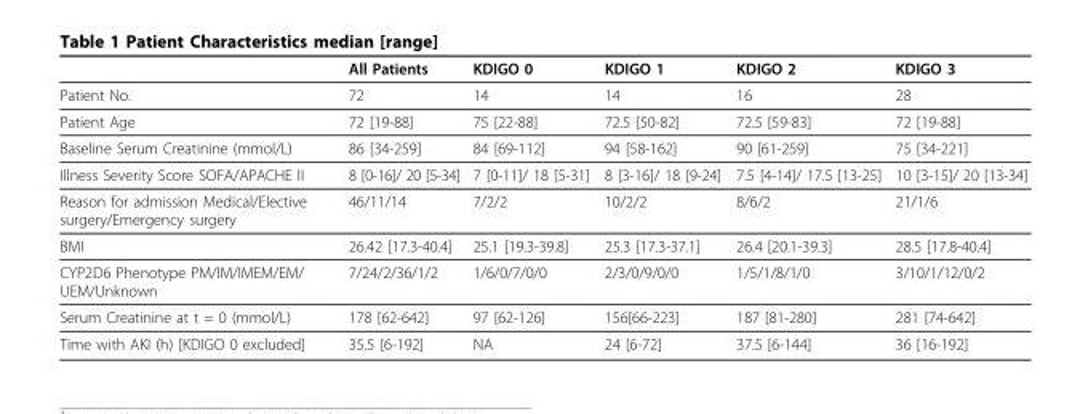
<table><thead><tr><td></td><td>All Patients</td><td>KDIGO 0</td><td>KDIGO 1</td><td>KDIGO 2</td><td>KDIGO 3</td></tr></thead><tbody><tr><td>Patient No.</td><td>72</td><td>14</td><td>14</td><td>16</td><td>28</td></tr><tr><td>Patient Age</td><td>72 [19-88]</td><td>75 [22-88]</td><td>72.5 [50-82]</td><td>72.5 [59-83]</td><td>72 [19-88]</td></tr><tr><td>Baseline Serum Creatinine (mmol/L)</td><td>86 [34-259]</td><td>84 [69-112]</td><td>94 [58-162]</td><td>90 [61-259]</td><td>75 [34-221]</td></tr><tr><td>Illness Severity Score SOFA/APACHE II</td><td>8 [0-16]/ 20 [5-34]</td><td>7 [0-11]/ 18 [5-31]</td><td>8 [3-16]/ 18 [9-24]</td><td>7.5 [4-14]/ 17.5 [13-25]</td><td>10 [3-15]/ 20 [13-34]</td></tr><tr><td>Reason for admission Medical/Elective surgery/Emergency surgery</td><td>46/11/14</td><td>7/2/2</td><td>10/2/2</td><td>8/6/2</td><td>21/1/6</td></tr><tr><td>BMI</td><td>26.42 [17.3-40.4]</td><td>25.1 [19.3-39.8]</td><td>25.3 [17.3-37.1]</td><td>26.4 [20.1-39.3]</td><td>28.5 [17.8-40.4]</td></tr><tr><td>CYP2D6 Phenotype PM/IM/IMEM/EM/ UEM/Unknown</td><td>7/24/2/36/1/2</td><td>1/6/0/7/0/0</td><td>2/3/0/9/0/0</td><td>1/5/1/8/1/0</td><td>3/10/1/12/0/2</td></tr><tr><td>Serum Creatinine at t = 0 (mmol/L)</td><td>178 [62-642]</td><td>97 [62-126]</td><td>156[66-223]</td><td>187 [81-280]</td><td>281 [74-642]</td></tr><tr><td>Time with AKI (h) [KDIGO 0 excluded]</td><td>35.5 [6-192]</td><td>NA</td><td>24 [6-72]</td><td>37.5 [6-144]</td><td>36 [16-192]</td></tr></tbody></table>